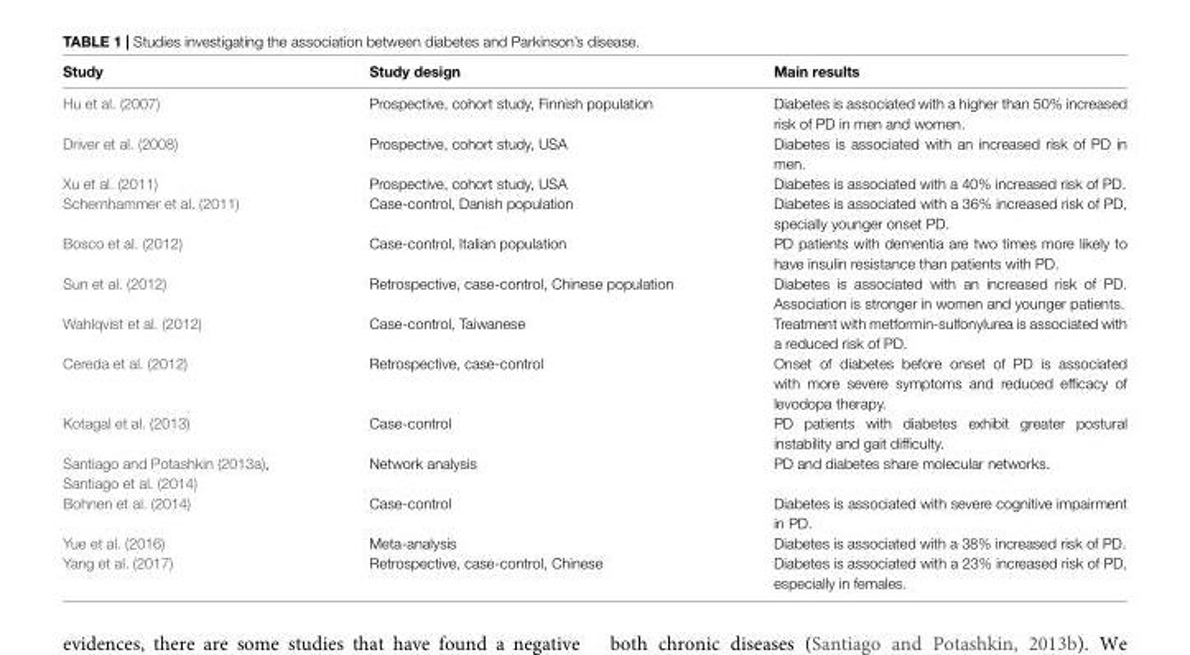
<table><thead><tr><td>Study</td><td>Study design</td><td>Main results</td></tr></thead><tbody><tr><td>Hu et al. (2007)</td><td>Prospective, cohort study, Finnish population</td><td>Diabetes is associated with a higher than 50% increased risk of PD in men and women.</td></tr><tr><td>Driver et al. (2008)</td><td>Prospective, cohort study, USA</td><td>Diabetes is associated with an increased risk of PD in men.</td></tr><tr><td>Xu et al. (2011)</td><td>Prospective, cohort study, USA</td><td>Diabetes is associated with a 40% increased risk of PD.</td></tr><tr><td>Schernhammer et al. (2011)</td><td>Case-control, Danish population</td><td>Diabetes is associated with a 36% increased risk of PD, specially younger onset PD.</td></tr><tr><td>Bosco et al. (2012)</td><td>Case-control, Italian population</td><td>PD patients with dementia are two times more likely to have insulin resistance than patients with PD.</td></tr><tr><td>Sun et al. (2012)</td><td>Retrospective, case-control, Chinese population</td><td>Diabetes is associated with an increased risk of PD. Association is stronger in women and younger patients.</td></tr><tr><td>Wahlqvist et al. (2012)</td><td>Case-control, Taiwanese</td><td>Treatment with metformin-sulfonylurea is associated with a reduced risk of PD.</td></tr><tr><td>Cereda et al. (2012)</td><td>Retrospective, case-control</td><td>Onset of diabetes before onset of PD is associated with more severe symptoms and reduced efficacy of levodopa therapy.</td></tr><tr><td>Kotagal et al. (2013)</td><td>Case-control</td><td>PD patients with diabetes exhibit greater postural instability and gait difficulty.</td></tr><tr><td>Santiago and Potashkin (2013a),</td><td>Network analysis</td><td>PD and diabetes share molecular networks.</td></tr><tr><td colspan="3">Santiago et al. (2014)</td></tr><tr><td>Bohnen et al. (2014)</td><td>Case-control</td><td>Diabetes is associated with severe cognitive impairment in PD.</td></tr><tr><td>Yue et al. (2016)</td><td>Meta-analysis</td><td>Diabetes is associated with a 38% increased risk of PD.</td></tr><tr><td>Yang et al. (2017)</td><td>Retrospective, case-control, Chinese</td><td>Diabetes is associated with a 23% increased risk of PD, especially in females.</td></tr></tbody></table>